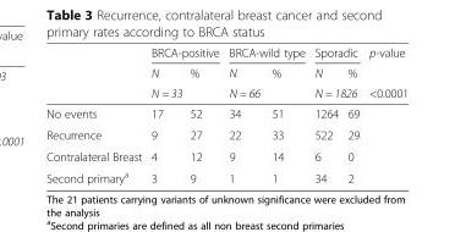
<table><thead><tr><td rowspan="3"></td><td colspan="2">BRCA-positive</td><td colspan="2">BRCA-wild type</td><td colspan="2">Sporadic</td><td rowspan="3">p-value &lt;0.0001</td></tr><tr><td>N</td><td>%</td><td>N</td><td>%</td><td>N</td><td>%</td></tr><tr><td colspan="2">N = 33</td><td colspan="2">N = 66</td><td colspan="2">N = 1826</td></tr></thead><tbody><tr><td>No events</td><td>17</td><td>52</td><td>34</td><td>51</td><td>1264</td><td>69</td><td></td></tr><tr><td>Recurrence</td><td>9</td><td>27</td><td>22</td><td>33</td><td>522</td><td>29</td><td></td></tr><tr><td>Contralateral Breast</td><td>4</td><td>12</td><td>9</td><td>14</td><td>6</td><td>0</td><td></td></tr><tr><td>Second primary<sup>a</sup></td><td>3</td><td>9</td><td>1</td><td>1</td><td>34</td><td>2</td><td></td></tr></tbody></table>